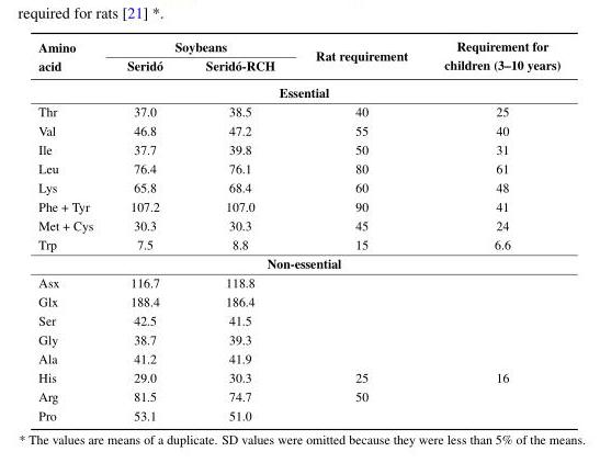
<table><thead><tr><td rowspan="2">Amino acid</td><td colspan="2">Soybeans</td><td rowspan="2">Rat requirement</td><td rowspan="2">Requirement for children (3–10 years)</td></tr><tr><td>Seridó</td><td>Seridó-RCH</td></tr></thead><tbody><tr><td colspan="5">Essential</td></tr><tr><td>Thr</td><td>37.0</td><td>38.5</td><td>40</td><td>25</td></tr><tr><td>Val</td><td>46.8</td><td>47.2</td><td>55</td><td>40</td></tr><tr><td>Ile</td><td>37.7</td><td>39.8</td><td>50</td><td>31</td></tr><tr><td>Leu</td><td>76.4</td><td>76.1</td><td>80</td><td>61</td></tr><tr><td>Lys</td><td>65.8</td><td>68.4</td><td>60</td><td>48</td></tr><tr><td>Phe + Tyr</td><td>107.2</td><td>107.0</td><td>90</td><td>41</td></tr><tr><td>Met + Cys</td><td>30.3</td><td>30.3</td><td>45</td><td>24</td></tr><tr><td>Trp</td><td>7.5</td><td>8.8</td><td>15</td><td>6.6</td></tr><tr><td colspan="5">Non-essential</td></tr><tr><td>Asx</td><td>116.7</td><td>118.8</td><td></td><td></td></tr><tr><td>Glx</td><td>188.4</td><td>186.4</td><td></td><td></td></tr><tr><td>Ser</td><td>42.5</td><td>41.5</td><td></td><td></td></tr><tr><td>Gly</td><td>38.7</td><td>39.3</td><td></td><td></td></tr><tr><td>Ala</td><td>41.2</td><td>41.9</td><td></td><td></td></tr><tr><td>His</td><td>29.0</td><td>30.3</td><td>25</td><td>16</td></tr><tr><td>Arg</td><td>81.5</td><td>74.7</td><td>50</td><td></td></tr><tr><td>Pro</td><td>53.1</td><td>51.0</td><td></td><td></td></tr></tbody></table>